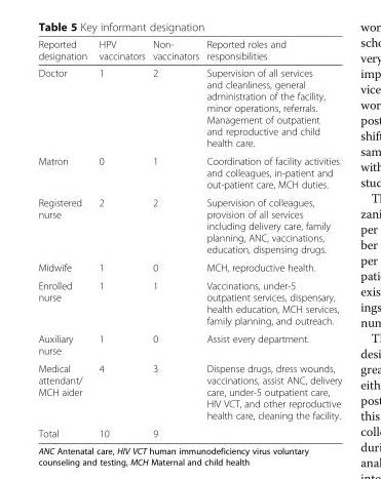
<table><thead><tr><td>Reported designation</td><td>HPV vaccinators</td><td>Non- vaccinators</td><td>Reported roles and responsibilities</td></tr></thead><tbody><tr><td>Doctor</td><td>1</td><td>2</td><td>Supervision of all services and cleanliness, general administration of the facility, minor operations, referrals. Management of outpatient and reproductive and child health care.</td></tr><tr><td>Matron</td><td>0</td><td>1</td><td>Coordination of facility activities and colleagues, in-patient and out-patient care, MCH duties.</td></tr><tr><td>Registered nurse</td><td>2</td><td>2</td><td>Supervision of colleagues, provision of all services including delivery care, family planning, ANC, vaccinations, education, dispensing drugs.</td></tr><tr><td>Midwife</td><td>1</td><td>0</td><td>MCH, reproductive health.</td></tr><tr><td>Enrolled nurse</td><td>1</td><td>1</td><td>Vaccinations, under-5 outpatient services, dispensary, health education, MCH services, family planning, and outreach.</td></tr><tr><td>Auxiliary nurse</td><td>1</td><td>0</td><td>Assist every department.</td></tr><tr><td>Medical attendant/ MCH aider</td><td>4</td><td>3</td><td>Dispense drugs, dress wounds, vaccinations, assist ANC, delivery care, under-5 outpatient care, HIV VCT, and other reproductive health care, cleaning the facility.</td></tr><tr><td>Total</td><td>10</td><td>9</td><td></td></tr></tbody></table>